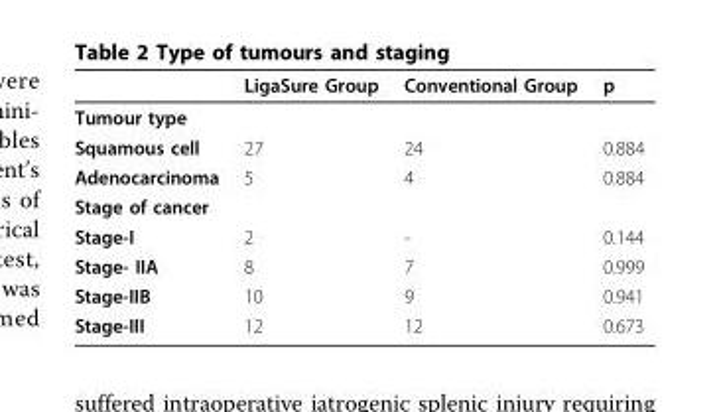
<table><thead><tr><td></td><td>LigaSure Group</td><td>Conventional Group</td><td>p</td></tr></thead><tbody><tr><td colspan="4">Tumour type</td></tr><tr><td>Squamous cell</td><td>27</td><td>24</td><td>0.884</td></tr><tr><td>Adenocarcinoma</td><td>5</td><td>4</td><td>0.884</td></tr><tr><td colspan="4">Stage of cancer</td></tr><tr><td>Stage-I</td><td>2</td><td>-</td><td>0.144</td></tr><tr><td>Stage- IIA</td><td>8</td><td>7</td><td>0.999</td></tr><tr><td>Stage-IIB</td><td>10</td><td>9</td><td>0.941</td></tr><tr><td>Stage-III</td><td>12</td><td>12</td><td>0.673</td></tr></tbody></table>